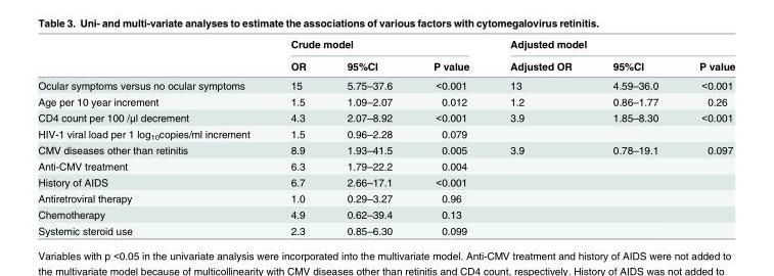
<table><thead><tr><td rowspan="2"></td><td colspan="3">Crude model</td><td colspan="3">Adjusted model</td></tr><tr><td>OR</td><td>95%CI</td><td>P value</td><td>Adjusted OR</td><td>95%CI</td><td>P value</td></tr></thead><tbody><tr><td>Ocular symptoms versus no ocular symptoms</td><td>15</td><td>5.75–37.6</td><td>&lt;0.001</td><td>13</td><td>4.59–36.0</td><td>&lt;0.001</td></tr><tr><td>Age per 10 year increment</td><td>1.5</td><td>1.09–2.07</td><td>0.012</td><td>1.2</td><td>0.86–1.77</td><td>0.26</td></tr><tr><td>CD4 count per 100 /μl decrement</td><td>4.3</td><td>2.07–8.92</td><td>&lt;0.001</td><td>3.9</td><td>1.85–8.30</td><td>&lt;0.001</td></tr><tr><td>HIV-1 viral load per 1 log<sub>10</sub>copies/ml increment</td><td>1.5</td><td>0.96–2.28</td><td>0.079</td><td></td><td></td><td></td></tr><tr><td>CMV diseases other than retinitis</td><td>8.9</td><td>1.93–41.5</td><td>0.005</td><td>3.9</td><td>0.78–19.1</td><td>0.097</td></tr><tr><td>Anti-CMV treatment</td><td>6.3</td><td>1.79–22.2</td><td>0.004</td><td></td><td></td><td></td></tr><tr><td>History of AIDS</td><td>6.7</td><td>2.66–17.1</td><td>&lt;0.001</td><td></td><td></td><td></td></tr><tr><td>Antiretroviral therapy</td><td>1.0</td><td>0.29–3.27</td><td>0.96</td><td></td><td></td><td></td></tr><tr><td>Chemotherapy</td><td>4.9</td><td>0.62–39.4</td><td>0.13</td><td></td><td></td><td></td></tr><tr><td>Systemic steroid use</td><td>2.3</td><td>0.85–6.30</td><td>0.099</td><td></td><td></td><td></td></tr></tbody></table>